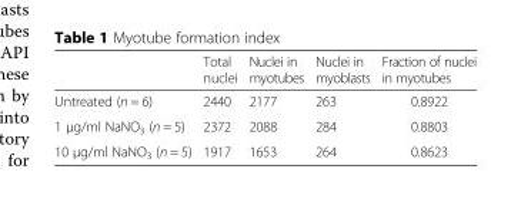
<table><thead><tr><td></td><td>Total nuclei</td><td>Nuclei in myotubes</td><td>Nuclei in myoblasts</td><td>Fraction of nuclei in myotubes</td></tr></thead><tbody><tr><td>Untreated (n = 6)</td><td>2440</td><td>2177</td><td>263</td><td>0.8922</td></tr><tr><td>1 μg/ml NaNO<sub>3</sub> (n = 5)</td><td>2372</td><td>2088</td><td>284</td><td>0.8803</td></tr><tr><td>10 μg/ml NaNO<sub>3</sub> (n = 5)</td><td>1917</td><td>1653</td><td>264</td><td>0.8623</td></tr></tbody></table>